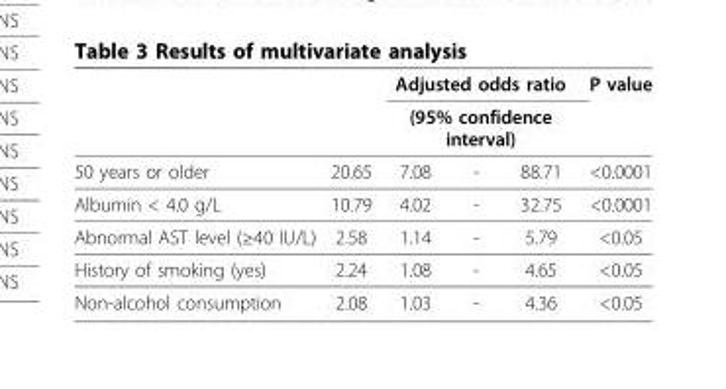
<table><thead><tr><td rowspan="3">50 years or older</td><td rowspan="3">20.65</td><td rowspan="2" colspan="3">Adjusted odds ratio (95% confidence interval)</td><td rowspan="3">P value &lt;0.0001</td></tr><tr></tr><tr><td>7.08</td><td>-</td><td>88.71</td></tr></thead><tbody><tr><td>Albumin &lt; 4.0 g/L</td><td>10.79</td><td>4.02</td><td>-</td><td>32.75</td><td>&lt;0.0001</td></tr><tr><td>Abnormal AST level (≥40 IU/L)</td><td>2.58</td><td>1.14</td><td>-</td><td>5.79</td><td>&lt;0.05</td></tr><tr><td>History of smoking (yes)</td><td>2.24</td><td>1.08</td><td>-</td><td>4.65</td><td>&lt;0.05</td></tr><tr><td>Non-alcohol consumption</td><td>2.08</td><td>1.03</td><td>-</td><td>4.36</td><td>&lt;0.05</td></tr></tbody></table>